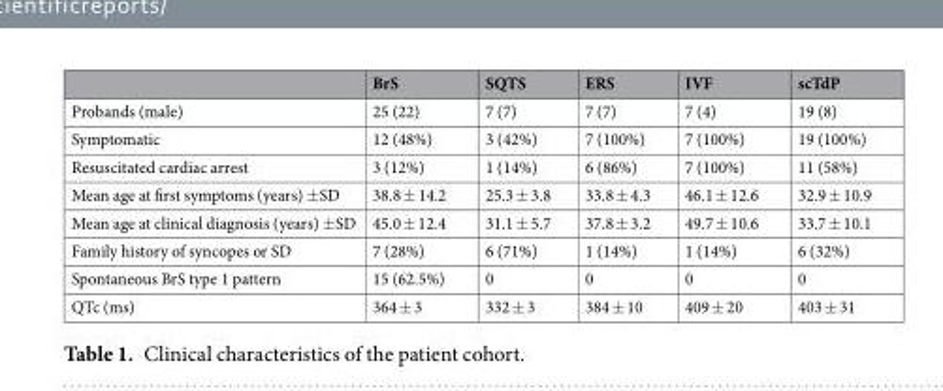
<table><thead><tr><td></td><td>BrS</td><td>SQTS</td><td>ERS</td><td>IVF</td><td>scTdP</td></tr></thead><tbody><tr><td>Probands (male)</td><td>25 (22)</td><td>7 (7)</td><td>7 (7)</td><td>7 (4)</td><td>19 (8)</td></tr><tr><td>Symptomatic</td><td>12 (48%)</td><td>3 (42%)</td><td>7 (100%)</td><td>7 (100%)</td><td>19 (100%)</td></tr><tr><td>Resuscitated cardiac arrest</td><td>3 (12%)</td><td>1 (14%)</td><td>6 (86%)</td><td>7 (100%)</td><td>11 (58%)</td></tr><tr><td>Mean age at first symptoms (years) ±SD</td><td>38.8 ± 14.2</td><td>25.3 ± 3.8</td><td>33.8 ± 4.3</td><td>46.1 ± 12.6</td><td>32.9 ± 10.9</td></tr><tr><td>Mean age at clinical diagnosis (years) ±SD</td><td>45.0 ± 12.4</td><td>31.1 ± 5.7</td><td>37.8 ± 3.2</td><td>49.7 ± 10.6</td><td>33.7 ± 10.1</td></tr><tr><td>Family history of syncopes or SD</td><td>7 (28%)</td><td>6 (71%)</td><td>1 (14%)</td><td>1 (14%)</td><td>6 (32%)</td></tr><tr><td>Spontaneous BrS type 1 pattern</td><td>15 (62.5%)</td><td>0</td><td>0</td><td>0</td><td>0</td></tr><tr><td>QTc (ms)</td><td>364 ± 3</td><td>332 ± 3</td><td>384 ± 10</td><td>409 ± 20</td><td>403 ± 31</td></tr></tbody></table>